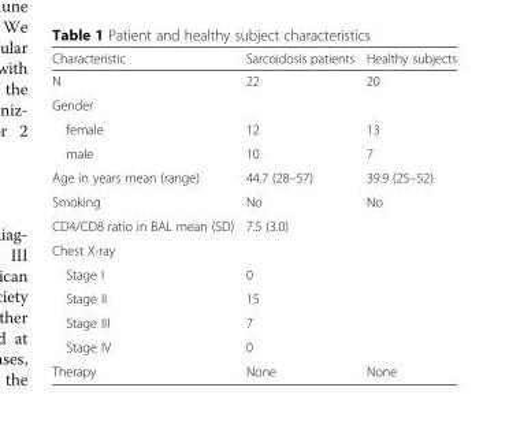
<table><thead><tr><td>Characteristic</td><td>Sarcoidosis patients</td><td>Healthy subjects</td></tr></thead><tbody><tr><td>N</td><td>22</td><td>20</td></tr><tr><td colspan="3">Gender</td></tr><tr><td>female</td><td>12</td><td>13</td></tr><tr><td>male</td><td>10</td><td>7</td></tr><tr><td>Age in years mean (range)</td><td>44.7 (28–57)</td><td>39.9 (25–52)</td></tr><tr><td>Smoking</td><td>No</td><td>No</td></tr><tr><td>CD4/CD8 ratio in BAL mean (SD)</td><td>7.5 (3.0)</td><td></td></tr><tr><td colspan="3">Chest X-ray</td></tr><tr><td>Stage I</td><td>0</td><td></td></tr><tr><td>Stage II</td><td>15</td><td></td></tr><tr><td>Stage III</td><td>7</td><td></td></tr><tr><td>Stage IV</td><td>0</td><td></td></tr><tr><td>Therapy</td><td>None</td><td>None</td></tr></tbody></table>